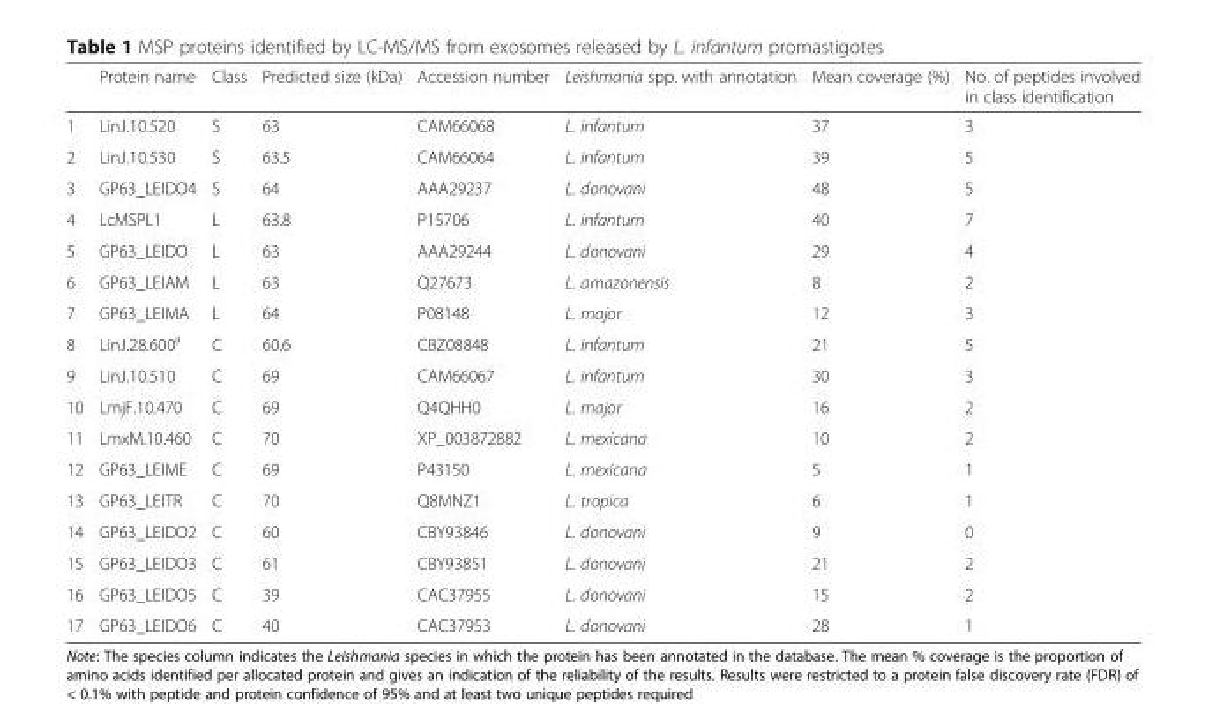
<table><thead><tr><td></td><td>Protein name</td><td>Class</td><td>Predicted size (kDa)</td><td>Accession number</td><td>Leishmania spp. with annotation</td><td>Mean coverage (%)</td><td>No. of peptides involved in class identification</td></tr></thead><tbody><tr><td>1</td><td>LinJ.10.520</td><td>S</td><td>63</td><td>CAM66068</td><td>L. infantum</td><td>37</td><td>3</td></tr><tr><td>2</td><td>LinJ.10.530</td><td>S</td><td>63.5</td><td>CAM66064</td><td>L. infantum</td><td>39</td><td>5</td></tr><tr><td>3</td><td>GP63_LEIDO4</td><td>S</td><td>64</td><td>AAA29237</td><td>L. donovani</td><td>48</td><td>5</td></tr><tr><td>4</td><td>LcMSPL1</td><td>L</td><td>63.8</td><td>P15706</td><td>L. infantum</td><td>40</td><td>7</td></tr><tr><td>5</td><td>GP63_LEIDO</td><td>L</td><td>63</td><td>AAA29244</td><td>L. donovani</td><td>29</td><td>4</td></tr><tr><td>6</td><td>GP63_LEIAM</td><td>L</td><td>63</td><td>Q27673</td><td>L. amazonensis</td><td>8</td><td>2</td></tr><tr><td>7</td><td>GP63_LEIMA</td><td>L</td><td>64</td><td>P08148</td><td>L. major</td><td>12</td><td>3</td></tr><tr><td>8</td><td>LinJ.28.600<sup>a</sup></td><td>C</td><td>60.6</td><td>CBZ08848</td><td>L. infantum</td><td>21</td><td>5</td></tr><tr><td>9</td><td>LinJ.10.510</td><td>C</td><td>69</td><td>CAM66067</td><td>L. infantum</td><td>30</td><td>3</td></tr><tr><td>10</td><td>LmjF.10.470</td><td>C</td><td>69</td><td>Q4QHH0</td><td>L. major</td><td>16</td><td>2</td></tr><tr><td>11</td><td>LmxM.10.460</td><td>C</td><td>70</td><td>XP_003872882</td><td>L. mexicana</td><td>10</td><td>2</td></tr><tr><td>12</td><td>GP63_LEIME</td><td>C</td><td>69</td><td>P43150</td><td>L. mexicana</td><td>5</td><td>1</td></tr><tr><td>13</td><td>GP63_LEITR</td><td>C</td><td>70</td><td>Q8MNZ1</td><td>L. tropica</td><td>6</td><td>1</td></tr><tr><td>14</td><td>GP63_LEIDO2</td><td>C</td><td>60</td><td>CBY93846</td><td>L. donovani</td><td>9</td><td>0</td></tr><tr><td>15</td><td>GP63_LEIDO3</td><td>C</td><td>61</td><td>CBY93851</td><td>L. donovani</td><td>21</td><td>2</td></tr><tr><td>16</td><td>GP63_LEIDO5</td><td>C</td><td>39</td><td>CAC37955</td><td>L. donovani</td><td>15</td><td>2</td></tr><tr><td>17</td><td>GP63_LEIDO6</td><td>C</td><td>40</td><td>CAC37953</td><td>L. donovani</td><td>28</td><td>1</td></tr></tbody></table>